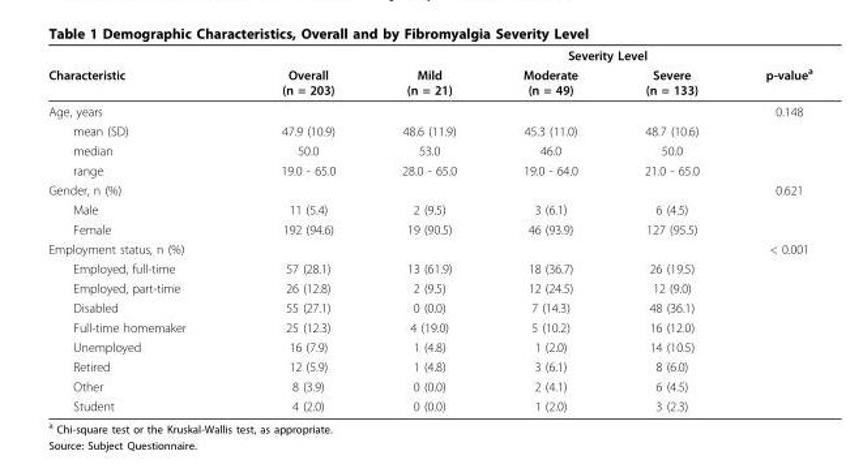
<table><thead><tr><td rowspan="2">Characteristic</td><td rowspan="2">Overall (n = 203)</td><td colspan="4">Severity Level</td></tr><tr><td>Mild (n = 21)</td><td>Moderate (n = 49)</td><td>Severe (n = 133)</td><td>p-value<sup>a</sup></td></tr></thead><tbody><tr><td>Age, years</td><td></td><td></td><td></td><td></td><td>0.148</td></tr><tr><td>mean (SD)</td><td>47.9 (10.9)</td><td>48.6 (11.9)</td><td>45.3 (11.0)</td><td>48.7 (10.6)</td><td></td></tr><tr><td>median</td><td>50.0</td><td>53.0</td><td>46.0</td><td>50.0</td><td></td></tr><tr><td>range</td><td>19.0 - 65.0</td><td>28.0 - 65.0</td><td>19.0 - 64.0</td><td>21.0 - 65.0</td><td></td></tr><tr><td>Gender, n (%)</td><td></td><td></td><td></td><td></td><td>0.621</td></tr><tr><td>Male</td><td>11 (5.4)</td><td>2 (9.5)</td><td>3 (6.1)</td><td>6 (4.5)</td><td></td></tr><tr><td>Female</td><td>192 (94.6)</td><td>19 (90.5)</td><td>46 (93.9)</td><td>127 (95.5)</td><td></td></tr><tr><td>Employment status, n (%)</td><td></td><td></td><td></td><td></td><td>&lt; 0.001</td></tr><tr><td>Employed, full-time</td><td>57 (28.1)</td><td>13 (61.9)</td><td>18 (36.7)</td><td>26 (19.5)</td><td></td></tr><tr><td>Employed, part-time</td><td>26 (12.8)</td><td>2 (9.5)</td><td>12 (24.5)</td><td>12 (9.0)</td><td></td></tr><tr><td>Disabled</td><td>55 (27.1)</td><td>0 (0.0)</td><td>7 (14.3)</td><td>48 (36.1)</td><td></td></tr><tr><td>Full-time homemaker</td><td>25 (12.3)</td><td>4 (19.0)</td><td>5 (10.2)</td><td>16 (12.0)</td><td></td></tr><tr><td>Unemployed</td><td>16 (7.9)</td><td>1 (4.8)</td><td>1 (2.0)</td><td>14 (10.5)</td><td></td></tr><tr><td>Retired</td><td>12 (5.9)</td><td>1 (4.8)</td><td>3 (6.1)</td><td>8 (6.0)</td><td></td></tr><tr><td>Other</td><td>8 (3.9)</td><td>0 (0.0)</td><td>2 (4.1)</td><td>6 (4.5)</td><td></td></tr><tr><td>Student</td><td>4 (2.0)</td><td>0 (0.0)</td><td>1 (2.0)</td><td>3 (2.3)</td><td></td></tr></tbody></table>